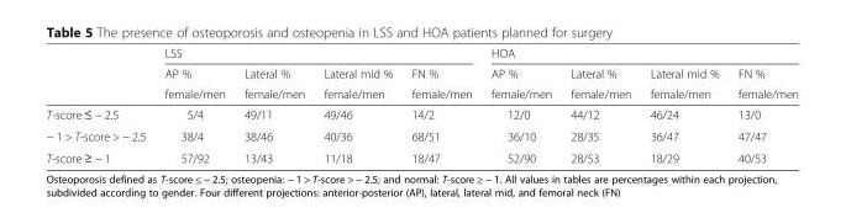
<table><thead><tr><td rowspan="3"></td><td colspan="4">LSS</td><td colspan="4">HOA</td></tr><tr><td rowspan="2">AP % female/men</td><td rowspan="2">Lateral % female/men</td><td rowspan="2">Lateral mid % female/men</td><td rowspan="2">FN % female/men</td><td rowspan="2">AP % female/men</td><td rowspan="2">Lateral % female/men</td><td rowspan="2">Lateral mid % female/men</td><td rowspan="2">FN % female/men</td></tr><tr></tr></thead><tbody><tr><td>T-score ≤ − 2.5</td><td>5/4</td><td>49/11</td><td>49/46</td><td>14/2</td><td>12/0</td><td>44/12</td><td>46/24</td><td>13/0</td></tr><tr><td>− 1 &gt; T-score &gt; − 2.5</td><td>38/4</td><td>38/46</td><td>40/36</td><td>68/51</td><td>36/10</td><td>28/35</td><td>36/47</td><td>47/47</td></tr><tr><td>T-score ≥ − 1</td><td>57/92</td><td>13/43</td><td>11/18</td><td>18/47</td><td>52/90</td><td>28/53</td><td>18/29</td><td>40/53</td></tr></tbody></table>